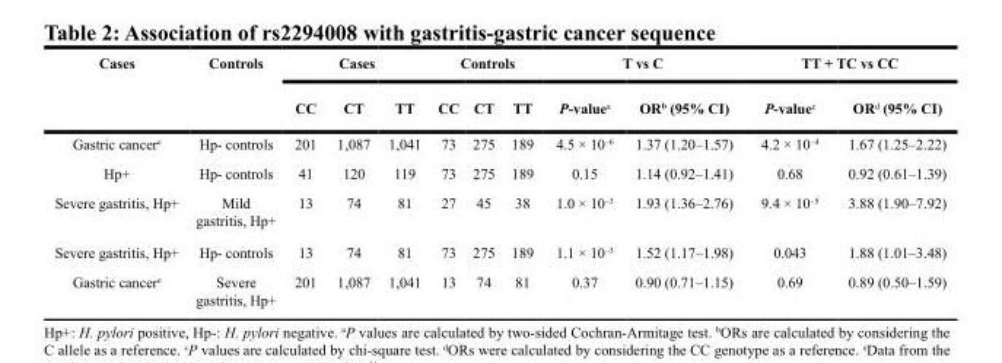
<table><thead><tr><td rowspan="2">Cases</td><td rowspan="2">Controls</td><td colspan="3">Cases</td><td colspan="3">Controls</td><td colspan="2">T vs C</td><td colspan="2">TT + TC vs CC</td></tr><tr><td>CC</td><td>CT</td><td>TT</td><td>CC</td><td>CT</td><td>TT</td><td>P-value<sup>a</sup></td><td>OR<sup>b</sup> (95% CI)</td><td>P-value<sup>c</sup></td><td>OR<sup>d</sup> (95% CI)</td></tr></thead><tbody><tr><td>Gastric cancer<sup>e</sup></td><td>Hp- controls</td><td>201</td><td>1,087</td><td>1,041</td><td>73</td><td>275</td><td>189</td><td>4.5 × 10<sup>–6</sup></td><td>1.37 (1.20–1.57)</td><td>4.2 × 10<sup>–4</sup></td><td>1.67 (1.25–2.22)</td></tr><tr><td>Hp+</td><td>Hp- controls</td><td>41</td><td>120</td><td>119</td><td>73</td><td>275</td><td>189</td><td>0.15</td><td>1.14 (0.92–1.41)</td><td>0.68</td><td>0.92 (0.61–1.39)</td></tr><tr><td>Severe gastritis, Hp+</td><td>Mild gastritis, Hp+</td><td>13</td><td>74</td><td>81</td><td>27</td><td>45</td><td>38</td><td>1.0 × 10<sup>–3</sup></td><td>1.93 (1.36–2.76)</td><td>9.4 × 10<sup>–5</sup></td><td>3.88 (1.90–7.92)</td></tr><tr><td>Severe gastritis, Hp+</td><td>Hp- controls</td><td>13</td><td>74</td><td>81</td><td>73</td><td>275</td><td>189</td><td>1.1 × 10<sup>–3</sup></td><td>1.52 (1.17–1.98)</td><td>0.043</td><td>1.88 (1.01–3.48)</td></tr><tr><td>Gastric cancer<sup>e</sup></td><td>Severe gastritis, Hp+</td><td>201</td><td>1,087</td><td>1,041</td><td>13</td><td>74</td><td>81</td><td>0.37</td><td>0.90 (0.71–1.15)</td><td>0.69</td><td>0.89 (0.50–1.59)</td></tr></tbody></table>